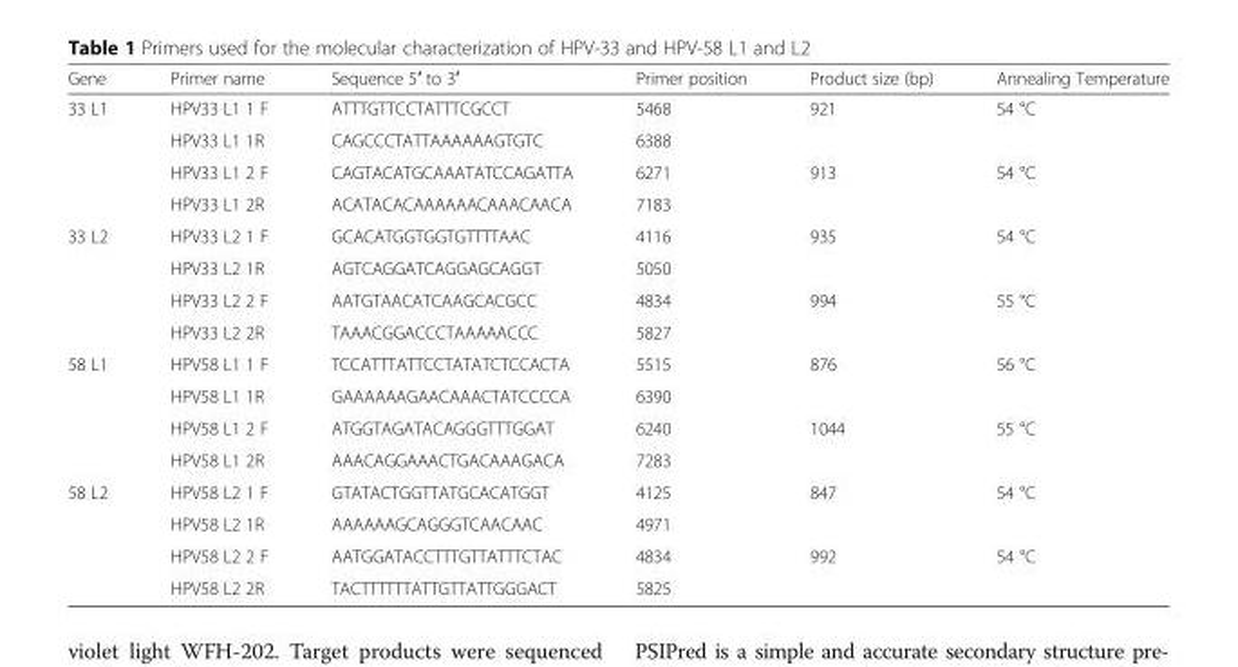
<table><thead><tr><td>Gene</td><td>Primer name</td><td>Sequence 5′ to 3′</td><td>Primer position</td><td>Product size (bp)</td><td>Annealing Temperature</td></tr></thead><tbody><tr><td rowspan="4">33 L1</td><td>HPV33 L1 1 F</td><td>ATTTGTTCCTATTTCGCCT</td><td>5468</td><td>921</td><td>54 °C</td></tr><tr><td>HPV33 L1 1R</td><td>CAGCCCTATTAAAAAAGTGTC</td><td>6388</td><td></td><td></td></tr><tr><td>HPV33 L1 2 F</td><td>CAGTACATGCAAATATCCAGATTA</td><td>6271</td><td>913</td><td>54 °C</td></tr><tr><td>HPV33 L1 2R</td><td>ACATACACAAAAAACAAACAACA</td><td>7183</td><td></td><td></td></tr><tr><td rowspan="4">33 L2</td><td>HPV33 L2 1 F</td><td>GCACATGGTGGTGTTTTAAC</td><td>4116</td><td>935</td><td>54 °C</td></tr><tr><td>HPV33 L2 1R</td><td>AGTCAGGATCAGGAGCAGGT</td><td>5050</td><td></td><td></td></tr><tr><td>HPV33 L2 2 F</td><td>AATGTAACATCAAGCACGCC</td><td>4834</td><td>994</td><td>55 °C</td></tr><tr><td>HPV33 L2 2R</td><td>TAAACGGACCCTAAAAACCC</td><td>5827</td><td></td><td></td></tr><tr><td rowspan="4">58 L1</td><td>HPV58 L1 1 F</td><td>TCCATTTATTCCTATATCTCCACTA</td><td>5515</td><td>876</td><td>56 °C</td></tr><tr><td>HPV58 L1 1R</td><td>GAAAAAAGAACAAACTATCCCCA</td><td>6390</td><td></td><td></td></tr><tr><td>HPV58 L1 2 F</td><td>ATGGTAGATACAGGGTTTGGAT</td><td>6240</td><td>1044</td><td>55 °C</td></tr><tr><td>HPV58 L1 2R</td><td>AAACAGGAAACTGACAAAGACA</td><td>7283</td><td></td><td></td></tr><tr><td rowspan="4">58 L2</td><td>HPV58 L2 1 F</td><td>GTATACTGGTTATGCACATGGT</td><td>4125</td><td>847</td><td>54 °C</td></tr><tr><td>HPV58 L2 1R</td><td>AAAAAAGCAGGGTCAACAAC</td><td>4971</td><td></td><td></td></tr><tr><td>HPV58 L2 2 F</td><td>AATGGATACCTTTGTTATTTCTAC</td><td>4834</td><td>992</td><td>54 °C</td></tr><tr><td>HPV58 L2 2R</td><td>TACTTTTTTATTGTTATTGGGACT</td><td>5825</td><td></td><td></td></tr></tbody></table>